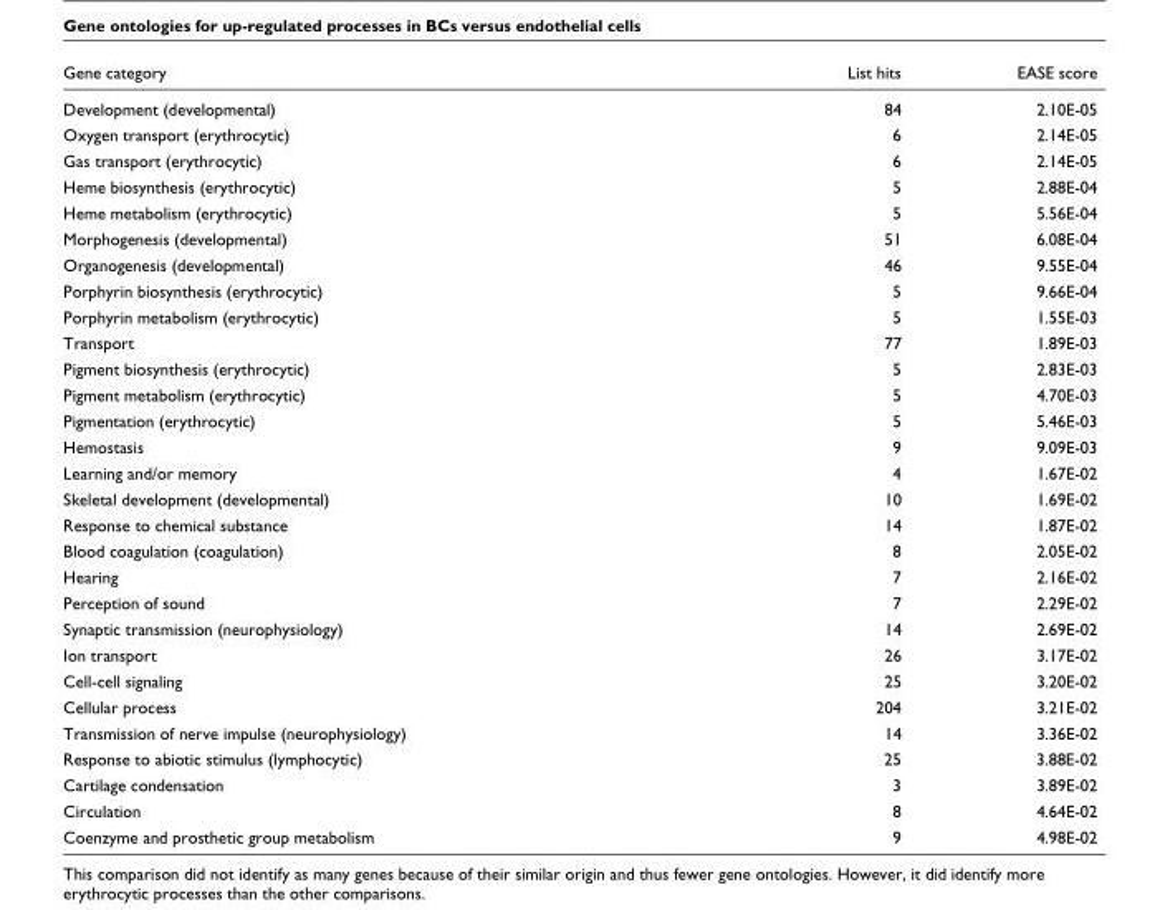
<table><thead><tr><td>Gene category</td><td>List hits</td><td>EASE score</td></tr></thead><tbody><tr><td>Development (developmental)</td><td>84</td><td>2.10E-05</td></tr><tr><td>Oxygen transport (erythrocytic)</td><td>6</td><td>2.14E-05</td></tr><tr><td>Gas transport (erythrocytic)</td><td>6</td><td>2.14E-05</td></tr><tr><td>Heme biosynthesis (erythrocytic)</td><td>5</td><td>2.88E-04</td></tr><tr><td>Heme metabolism (erythrocytic)</td><td>5</td><td>5.56E-04</td></tr><tr><td>Morphogenesis (developmental)</td><td>51</td><td>6.08E-04</td></tr><tr><td>Organogenesis (developmental)</td><td>46</td><td>9.55E-04</td></tr><tr><td>Porphyrin biosynthesis (erythrocytic)</td><td>5</td><td>9.66E-04</td></tr><tr><td>Porphyrin metabolism (erythrocytic)</td><td>5</td><td>1.55E-03</td></tr><tr><td>Transport</td><td>77</td><td>1.89E-03</td></tr><tr><td>Pigment biosynthesis (erythrocytic)</td><td>5</td><td>2.83E-03</td></tr><tr><td>Pigment metabolism (erythrocytic)</td><td>5</td><td>4.70E-03</td></tr><tr><td>Pigmentation (erythrocytic)</td><td>5</td><td>5.46E-03</td></tr><tr><td>Hemostasis</td><td>9</td><td>9.09E-03</td></tr><tr><td>Learning and/or memory</td><td>4</td><td>1.67E-02</td></tr><tr><td>Skeletal development (developmental)</td><td>10</td><td>1.69E-02</td></tr><tr><td>Response to chemical substance</td><td>14</td><td>1.87E-02</td></tr><tr><td>Blood coagulation (coagulation)</td><td>8</td><td>2.05E-02</td></tr><tr><td>Hearing</td><td>7</td><td>2.16E-02</td></tr><tr><td>Perception of sound</td><td>7</td><td>2.29E-02</td></tr><tr><td>Synaptic transmission (neurophysiology)</td><td>14</td><td>2.69E-02</td></tr><tr><td>Ion transport</td><td>26</td><td>3.17E-02</td></tr><tr><td>Cell-cell signaling</td><td>25</td><td>3.20E-02</td></tr><tr><td>Cellular process</td><td>204</td><td>3.21E-02</td></tr><tr><td>Transmission of nerve impulse (neurophysiology)</td><td>14</td><td>3.36E-02</td></tr><tr><td>Response to abiotic stimulus (lymphocytic)</td><td>25</td><td>3.88E-02</td></tr><tr><td>Cartilage condensation</td><td>3</td><td>3.89E-02</td></tr><tr><td>Circulation</td><td>8</td><td>4.64E-02</td></tr><tr><td>Coenzyme and prosthetic group metabolism</td><td>9</td><td>4.98E-02</td></tr></tbody></table>